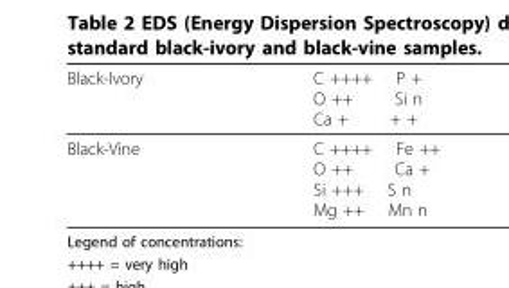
<table><thead><tr><td>Black-Ivory</td><td>C ++++ P + O ++ Si n Ca + + +</td></tr></thead><tbody><tr><td>Black-Vine</td><td>C ++++ Fe ++ O ++ Ca + Si +++ S n Mg ++ Mn n</td></tr></tbody></table>